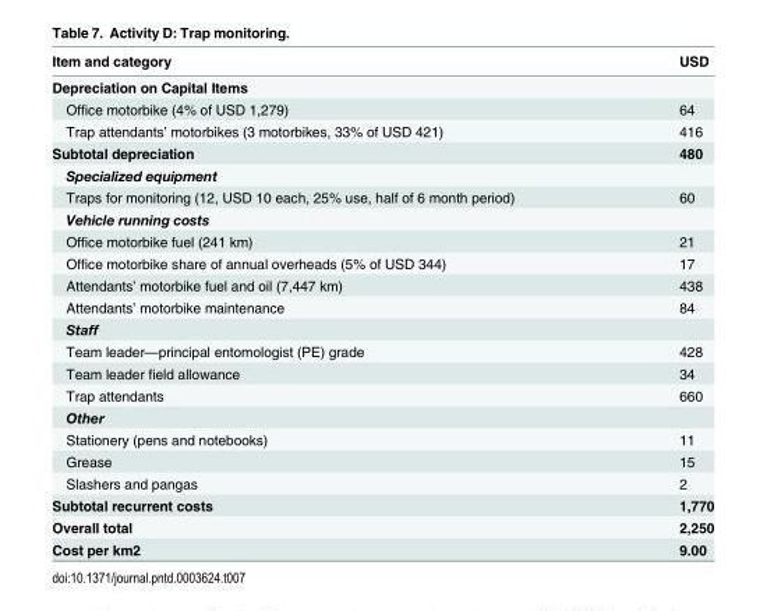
<table><thead><tr><td>Item and category</td><td>USD</td></tr></thead><tbody><tr><td colspan="2">Depreciation on Capital Items</td></tr><tr><td>Office motorbike (4% of USD 1,279)</td><td>64</td></tr><tr><td>Trap attendants’ motorbikes (3 motorbikes, 33% of USD 421)</td><td>416</td></tr><tr><td>Subtotal depreciation</td><td>480</td></tr><tr><td colspan="2">Specialized equipment</td></tr><tr><td>Traps for monitoring (12, USD 10 each, 25% use, half of 6 month period)</td><td>60</td></tr><tr><td colspan="2">Vehicle running costs</td></tr><tr><td>Office motorbike fuel (241 km)</td><td>21</td></tr><tr><td>Office motorbike share of annual overheads (5% of USD 344)</td><td>17</td></tr><tr><td>Attendants’ motorbike fuel and oil (7,447 km)</td><td>438</td></tr><tr><td>Attendants’ motorbike maintenance</td><td>84</td></tr><tr><td colspan="2">Staff</td></tr><tr><td>Team leader—principal entomologist (PE) grade</td><td>428</td></tr><tr><td>Team leader field allowance</td><td>34</td></tr><tr><td>Trap attendants</td><td>660</td></tr><tr><td colspan="2">Other</td></tr><tr><td>Stationery (pens and notebooks)</td><td>11</td></tr><tr><td>Grease</td><td>15</td></tr><tr><td>Slashers and pangas</td><td>2</td></tr><tr><td>Subtotal recurrent costs</td><td>1,770</td></tr><tr><td>Overall total</td><td>2,250</td></tr><tr><td>Cost per km2</td><td>9.00</td></tr></tbody></table>